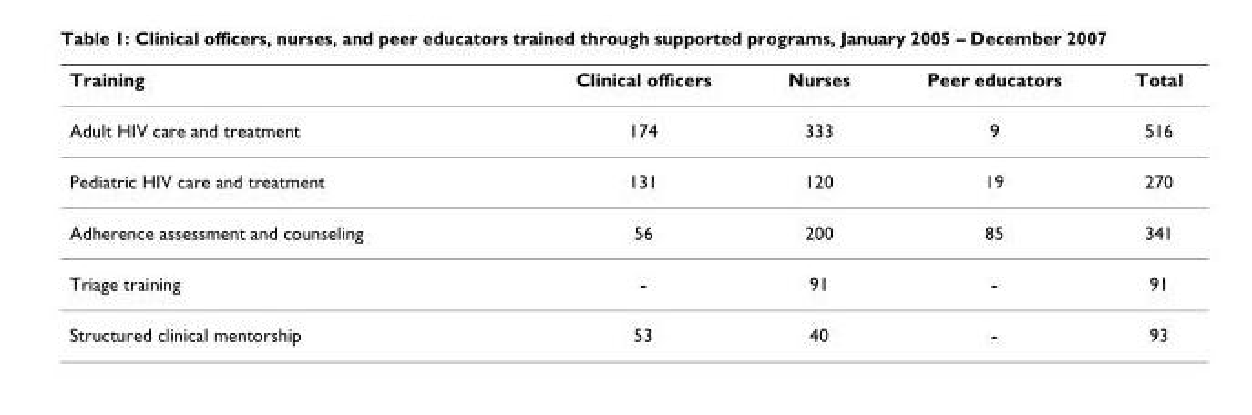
<table><thead><tr><td>Training</td><td>Clinical officers</td><td>Nurses</td><td>Peer educators</td><td>Total</td></tr></thead><tbody><tr><td>Adult HIV care and treatment</td><td>174</td><td>333</td><td>9</td><td>516</td></tr><tr><td>Pediatric HIV care and treatment</td><td>131</td><td>120</td><td>19</td><td>270</td></tr><tr><td>Adherence assessment and counseling</td><td>56</td><td>200</td><td>85</td><td>341</td></tr><tr><td>Triage training</td><td>-</td><td>91</td><td>-</td><td>91</td></tr><tr><td>Structured clinical mentorship</td><td>53</td><td>40</td><td>-</td><td>93</td></tr></tbody></table>